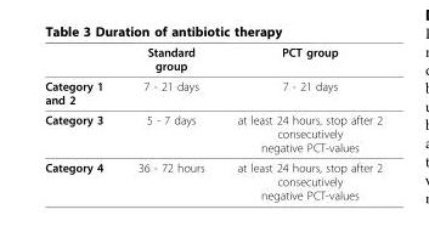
<table><thead><tr><td></td><td>Standard group</td><td>PCT group</td></tr></thead><tbody><tr><td>Category 1 and 2</td><td>7 - 21 days</td><td>7 - 21 days</td></tr><tr><td>Category 3</td><td>5 - 7 days</td><td>at least 24 hours, stop after 2 consecutively negative PCT-values</td></tr><tr><td>Category 4</td><td>36 - 72 hours</td><td>at least 24 hours, stop after 2 consecutively negative PCT-values</td></tr></tbody></table>